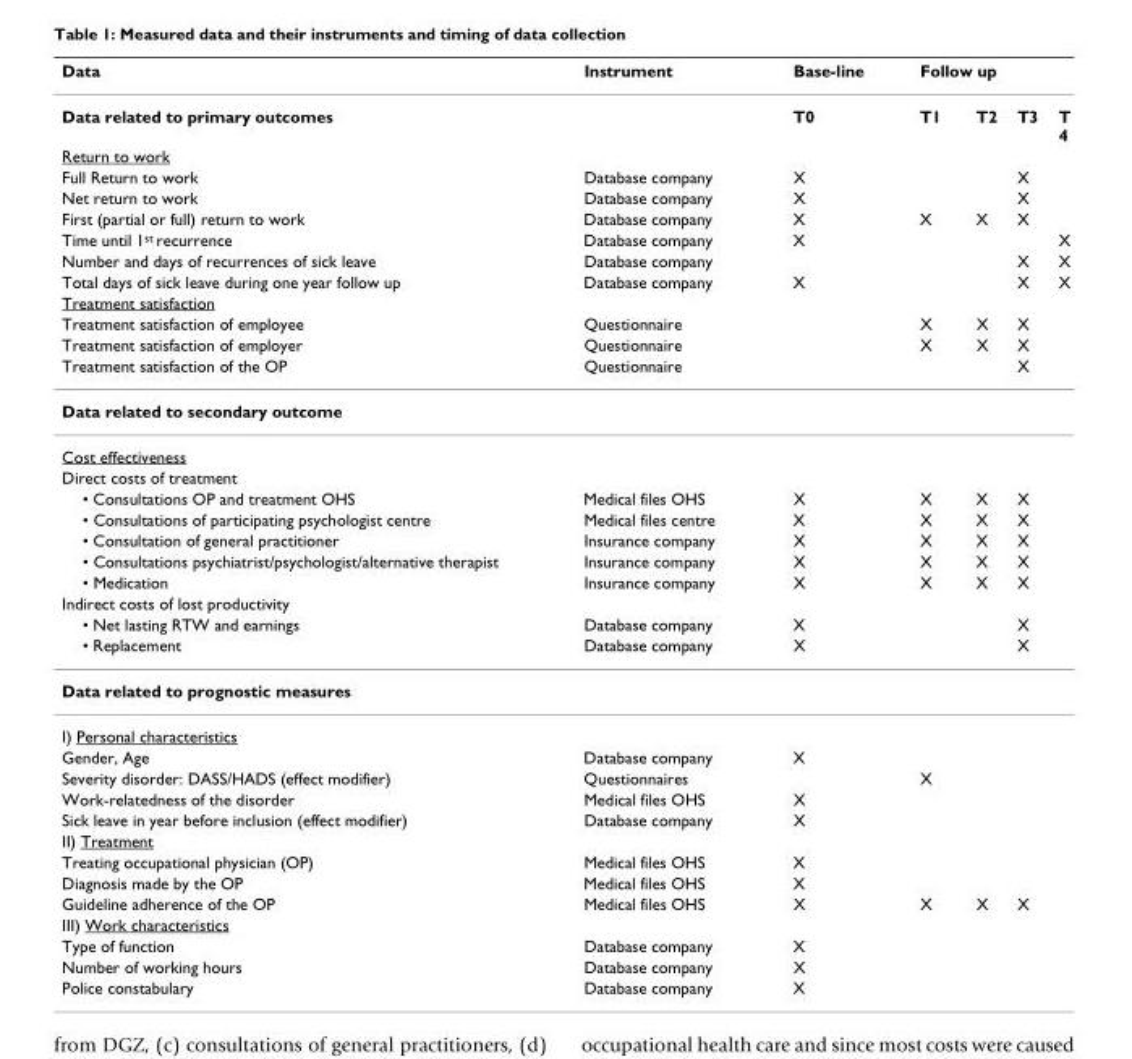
<table><thead><tr><td rowspan="2">Data Data related to primary outcomes</td><td rowspan="2">Instrument</td><td rowspan="2">Base-line T0</td><td colspan="4">Follow up</td></tr><tr><td>T1</td><td>T2</td><td>T3</td><td>T 4</td></tr></thead><tbody><tr><td colspan="7">Return to work</td></tr><tr><td>Full Return to work</td><td>Database company</td><td>X</td><td></td><td></td><td>X</td><td></td></tr><tr><td>Net return to work</td><td>Database company</td><td>X</td><td></td><td></td><td>X</td><td></td></tr><tr><td>First (partial or full) return to work</td><td>Database company</td><td>X</td><td>X</td><td>X</td><td>X</td><td></td></tr><tr><td>Time until 1<sup>st</sup> recurrence</td><td>Database company</td><td>X</td><td></td><td></td><td></td><td>X</td></tr><tr><td>Number and days of recurrences of sick leave</td><td>Database company</td><td></td><td></td><td></td><td>X</td><td>X</td></tr><tr><td>Total days of sick leave during one year follow up</td><td>Database company</td><td>X</td><td></td><td></td><td>X</td><td>X</td></tr><tr><td colspan="7">Treatment satisfaction</td></tr><tr><td>Treatment satisfaction of employee</td><td>Questionnaire</td><td></td><td>X</td><td>X</td><td>X</td><td></td></tr><tr><td>Treatment satisfaction of employer</td><td>Questionnaire</td><td></td><td>X</td><td>X</td><td>X</td><td></td></tr><tr><td>Treatment satisfaction of the OP</td><td>Questionnaire</td><td></td><td></td><td></td><td>X</td><td></td></tr><tr><td colspan="7">Data related to secondary outcome</td></tr><tr><td colspan="7">Cost effectiveness</td></tr><tr><td colspan="7">Direct costs of treatment</td></tr><tr><td>• Consultations OP and treatment OHS</td><td>Medical files OHS</td><td>X</td><td>X</td><td>X</td><td>X</td><td></td></tr><tr><td>• Consultations of participating psychologist centre</td><td>Medical files centre</td><td>X</td><td>X</td><td>X</td><td>X</td><td></td></tr><tr><td>• Consultation of general practitioner</td><td>Insurance company</td><td>X</td><td>X</td><td>X</td><td>X</td><td></td></tr><tr><td>• Consultations psychiatrist/psychologist/alternative therapist</td><td>Insurance company</td><td>X</td><td>X</td><td>X</td><td>X</td><td></td></tr><tr><td>• Medication</td><td>Insurance company</td><td>X</td><td>X</td><td>X</td><td>X</td><td></td></tr><tr><td colspan="7">Indirect costs of lost productivity</td></tr><tr><td>• Net lasting RTW and earnings</td><td>Database company</td><td>X</td><td></td><td></td><td>X</td><td></td></tr><tr><td>• Replacement</td><td>Database company</td><td>X</td><td></td><td></td><td>X</td><td></td></tr><tr><td colspan="7">Data related to prognostic measures</td></tr><tr><td colspan="7">I) Personal characteristics</td></tr><tr><td>Gender, Age</td><td>Database company</td><td>X</td><td></td><td></td><td></td><td></td></tr><tr><td>Severity disorder: DASS/HADS (effect modifier)</td><td>Questionnaires</td><td></td><td>X</td><td></td><td></td><td></td></tr><tr><td>Work-relatedness of the disorder</td><td>Medical files OHS</td><td>X</td><td></td><td></td><td></td><td></td></tr><tr><td>Sick leave in year before inclusion (effect modifier)</td><td>Database company</td><td>X</td><td></td><td></td><td></td><td></td></tr><tr><td colspan="7">II) Treatment</td></tr><tr><td>Treating occupational physician (OP)</td><td>Medical files OHS</td><td>X</td><td></td><td></td><td></td><td></td></tr><tr><td>Diagnosis made by the OP</td><td>Medical files OHS</td><td>X</td><td></td><td></td><td></td><td></td></tr><tr><td>Guideline adherence of the OP</td><td>Medical files OHS</td><td>X</td><td>X</td><td>X</td><td>X</td><td></td></tr><tr><td colspan="7">III) Work characteristics</td></tr><tr><td>Type of function</td><td>Database company</td><td>X</td><td></td><td></td><td></td><td></td></tr><tr><td>Number of working hours</td><td>Database company</td><td>X</td><td></td><td></td><td></td><td></td></tr><tr><td>Police constabulary</td><td>Database company</td><td>X</td><td></td><td></td><td></td><td></td></tr></tbody></table>